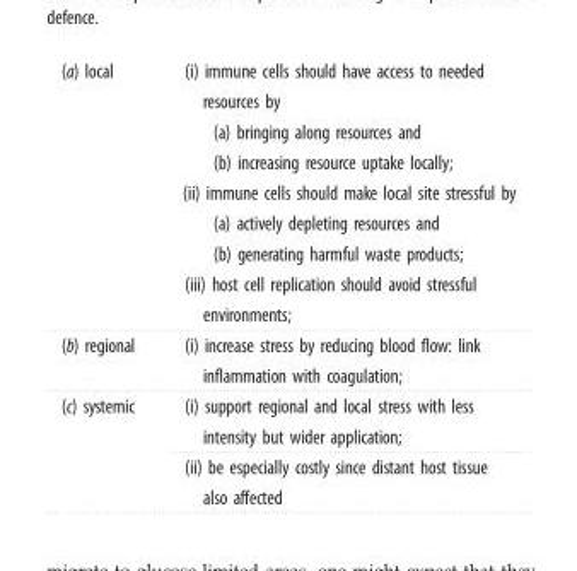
<table><tbody><tr><td>(a) local</td><td>(i) immune cells should have access to needed resources by (a) bringing along resources and (b) increasing resource uptake locally; (ii) immune cells should make local site stressful by (a) actively depleting resources and (b) generating harmful waste products; (iii) host cell replication should avoid stressful environments;</td></tr><tr><td>(b) regional</td><td>(i) increase stress by reducing blood flow: link inflammation with coagulation;</td></tr><tr><td rowspan="2">(c) systemic</td><td>(i) support regional and local stress with less intensity but wider application;</td></tr><tr><td>(ii) be especially costly since distant host tissue also affected</td></tr></tbody></table>